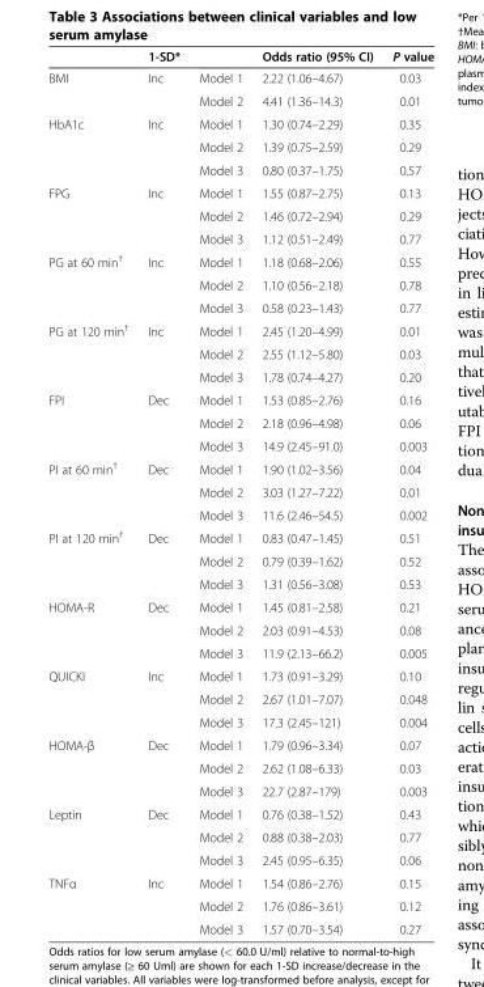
<table><thead><tr><td></td><td>1-SD*</td><td></td><td>Odds ratio (95% CI)</td><td>P value</td></tr></thead><tbody><tr><td rowspan="2">BMI</td><td>Inc</td><td>Model 1</td><td>2.22 (1.06–4.67)</td><td>0.03</td></tr><tr><td></td><td>Model 2</td><td>4.41 (1.36–14.3)</td><td>0.01</td></tr><tr><td rowspan="3">HbA1c</td><td>Inc</td><td>Model 1</td><td>1.30 (0.74–2.29)</td><td>0.35</td></tr><tr><td></td><td>Model 2</td><td>1.39 (0.75–2.59)</td><td>0.29</td></tr><tr><td></td><td>Model 3</td><td>0.80 (0.37–1.75)</td><td>0.57</td></tr><tr><td rowspan="3">FPG</td><td>Inc</td><td>Model 1</td><td>1.55 (0.87–2.75)</td><td>0.13</td></tr><tr><td></td><td>Model 2</td><td>1.46 (0.72–2.94)</td><td>0.29</td></tr><tr><td></td><td>Model 3</td><td>1.12 (0.51–2.49)</td><td>0.77</td></tr><tr><td rowspan="3">PG at 60 min<sup>†</sup></td><td>Inc</td><td>Model 1</td><td>1.18 (0.68–2.06)</td><td>0.55</td></tr><tr><td></td><td>Model 2</td><td>1.10 (0.56–2.18)</td><td>0.78</td></tr><tr><td></td><td>Model 3</td><td>0.58 (0.23–1.43)</td><td>0.77</td></tr><tr><td rowspan="3">PG at 120 min<sup>†</sup></td><td>Inc</td><td>Model 1</td><td>2.45 (1.20–4.99)</td><td>0.01</td></tr><tr><td></td><td>Model 2</td><td>2.55 (1.12–5.80)</td><td>0.03</td></tr><tr><td></td><td>Model 3</td><td>1.78 (0.74–4.27)</td><td>0.20</td></tr><tr><td rowspan="3">FPI</td><td>Dec</td><td>Model 1</td><td>1.53 (0.85–2.76)</td><td>0.16</td></tr><tr><td></td><td>Model 2</td><td>2.18 (0.96–4.98)</td><td>0.06</td></tr><tr><td></td><td>Model 3</td><td>14.9 (2.45–91.0)</td><td>0.003</td></tr><tr><td rowspan="3">PI at 60 min<sup>†</sup></td><td>Dec</td><td>Model 1</td><td>1.90 (1.02–3.56)</td><td>0.04</td></tr><tr><td></td><td>Model 2</td><td>3.03 (1.27–7.22)</td><td>0.01</td></tr><tr><td></td><td>Model 3</td><td>11.6 (2.46–54.5)</td><td>0.002</td></tr><tr><td rowspan="3">PI at 120 min<sup>†</sup></td><td>Dec</td><td>Model 1</td><td>0.83 (0.47–1.45)</td><td>0.51</td></tr><tr><td></td><td>Model 2</td><td>0.79 (0.39–1.62)</td><td>0.52</td></tr><tr><td></td><td>Model 3</td><td>1.31 (0.56–3.08)</td><td>0.53</td></tr><tr><td rowspan="3">HOMA-R</td><td>Dec</td><td>Model 1</td><td>1.45 (0.81–2.58)</td><td>0.21</td></tr><tr><td></td><td>Model 2</td><td>2.03 (0.91–4.53)</td><td>0.08</td></tr><tr><td></td><td>Model 3</td><td>11.9 (2.13–66.2)</td><td>0.005</td></tr><tr><td rowspan="3">QUICKI</td><td>Inc</td><td>Model 1</td><td>1.73 (0.91–3.29)</td><td>0.10</td></tr><tr><td></td><td>Model 2</td><td>2.67 (1.01–7.07)</td><td>0.048</td></tr><tr><td></td><td>Model 3</td><td>17.3 (2.45–121)</td><td>0.004</td></tr><tr><td rowspan="3">HOMA-β</td><td>Dec</td><td>Model 1</td><td>1.79 (0.96–3.34)</td><td>0.07</td></tr><tr><td></td><td>Model 2</td><td>2.62 (1.08–6.33)</td><td>0.03</td></tr><tr><td></td><td>Model 3</td><td>22.7 (2.87–179)</td><td>0.003</td></tr><tr><td rowspan="3">Leptin</td><td>Dec</td><td>Model 1</td><td>0.76 (0.38–1.52)</td><td>0.43</td></tr><tr><td></td><td>Model 2</td><td>0.88 (0.38–2.03)</td><td>0.77</td></tr><tr><td></td><td>Model 3</td><td>2.45 (0.95–6.35)</td><td>0.06</td></tr><tr><td rowspan="3">TNFα</td><td>Inc</td><td>Model 1</td><td>1.54 (0.86–2.76)</td><td>0.15</td></tr><tr><td></td><td>Model 2</td><td>1.76 (0.86–3.61)</td><td>0.12</td></tr><tr><td></td><td>Model 3</td><td>1.57 (0.70–3.54)</td><td>0.27</td></tr></tbody></table>